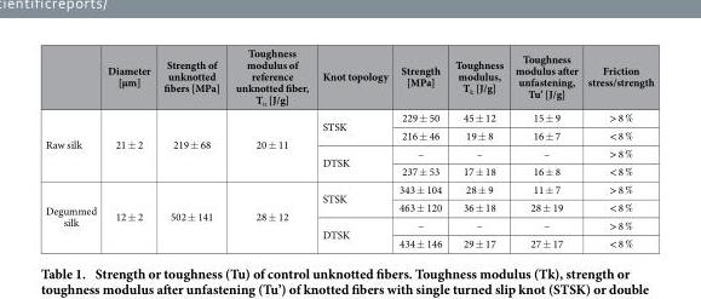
<table><thead><tr><td></td><td>Diameter [µm]</td><td>Strength of unknotted fibers [MPa]</td><td>Toughness modulus of reference unknotted fiber, T<sub>u</sub> [J/g]</td><td>Knot topology</td><td>Strength [MPa]</td><td>Toughness modulus, T<sub>k</sub> [J/g]</td><td>Toughness modulus after unfastening, Tu’ [J/g]</td><td>Friction stress/strength</td></tr></thead><tbody><tr><td rowspan="4">Raw silk</td><td rowspan="4">21 ± 2</td><td rowspan="4">219 ± 68</td><td rowspan="4">20 ± 11</td><td rowspan="2">STSK</td><td>229 ± 50</td><td>45 ± 12</td><td>15 ± 9</td><td>&gt; 8 %</td></tr><tr><td>216 ± 46</td><td>19 ± 8</td><td>16 ± 7</td><td>&lt; 8 %</td></tr><tr><td rowspan="2">DTSK</td><td>–</td><td>–</td><td>–</td><td>&gt; 8 %</td></tr><tr><td>237 ± 53</td><td>17 ± 18</td><td>16 ± 8</td><td>&lt; 8 %</td></tr><tr><td rowspan="4">Degummed silk</td><td rowspan="4">12 ± 2</td><td rowspan="4">502 ± 141</td><td rowspan="4">28 ± 12</td><td rowspan="2">STSK</td><td>343 ± 104</td><td>28 ± 9</td><td>11 ± 7</td><td>&gt; 8 %</td></tr><tr><td>463 ± 120</td><td>36 ± 18</td><td>28 ± 19</td><td>&lt; 8 %</td></tr><tr><td rowspan="2">DTSK</td><td>–</td><td>–</td><td>–</td><td>&gt; 8 %</td></tr><tr><td>434 ± 146</td><td>29 ± 17</td><td>27 ± 17</td><td>&lt; 8 %</td></tr></tbody></table>